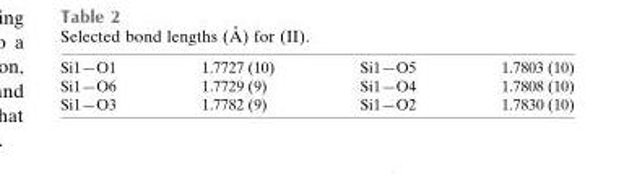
<table><tbody><tr><td>Si1—O1</td><td>1.7727 (10)</td><td>Si1—O5</td><td>1.7803 (10)</td></tr><tr><td>Si1—O6</td><td>1.7729 (9)</td><td>Si1—O4</td><td>1.7808 (10)</td></tr><tr><td>Si1—O3</td><td>1.7782 (9)</td><td>Si1—O2</td><td>1.7830 (10)</td></tr></tbody></table>